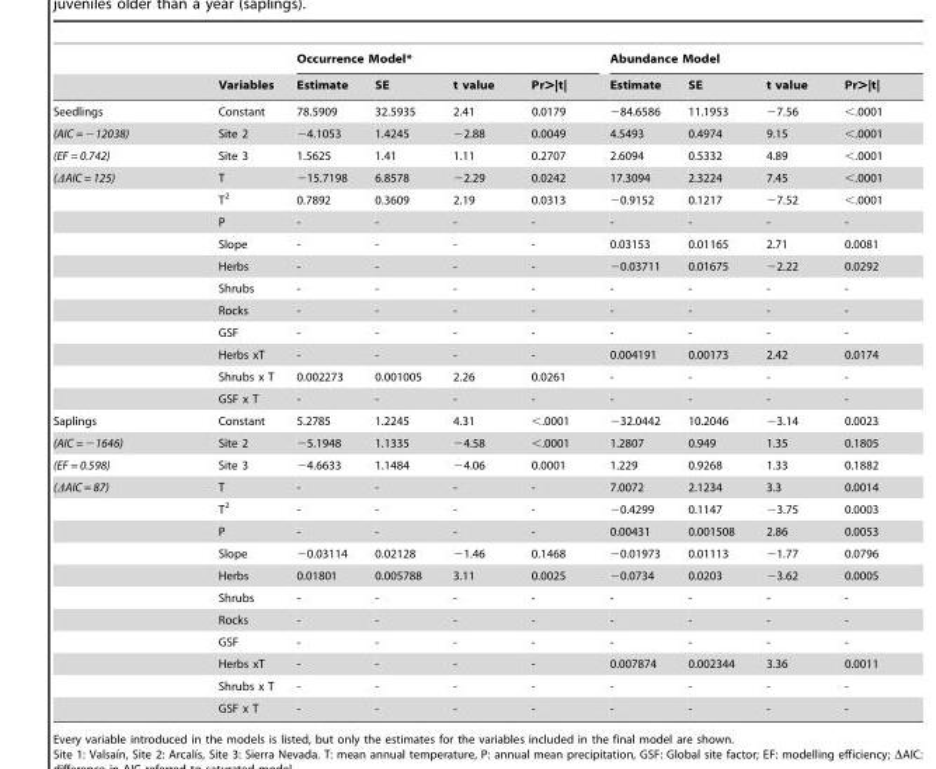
<table><thead><tr><td rowspan="2"></td><td rowspan="2">Variables</td><td colspan="4">Occurrence Model*</td><td colspan="4">Abundance Model</td></tr><tr><td>Estimate</td><td>SE</td><td>t value</td><td>Pr&gt;|t|</td><td>Estimate</td><td>SE</td><td>t value</td><td>Pr&gt;|t|</td></tr></thead><tbody><tr><td>Seedlings</td><td>Constant</td><td>78.5909</td><td>32.5935</td><td>2.41</td><td>0.0179</td><td>−84.6586</td><td>11.1953</td><td>−7.56</td><td>&lt;.0001</td></tr><tr><td>(AIC = −12038)</td><td>Site 2</td><td>−4.1053</td><td>1.4245</td><td>−2.88</td><td>0.0049</td><td>4.5493</td><td>0.4974</td><td>9.15</td><td>&lt;.0001</td></tr><tr><td>(EF = 0.742)</td><td>Site 3</td><td>1.5625</td><td>1.41</td><td>1.11</td><td>0.2707</td><td>2.6094</td><td>0.5332</td><td>4.89</td><td>&lt;.0001</td></tr><tr><td rowspan="11">(ΔAIC = 125)</td><td>T</td><td>−15.7198</td><td>6.8578</td><td>−2.29</td><td>0.0242</td><td>17.3094</td><td>2.3224</td><td>7.45</td><td>&lt;.0001</td></tr><tr><td>T<sup>2</sup></td><td>0.7892</td><td>0.3609</td><td>2.19</td><td>0.0313</td><td>−0.9152</td><td>0.1217</td><td>−7.52</td><td>&lt;.0001</td></tr><tr><td>P</td><td>-</td><td>-</td><td>-</td><td>-</td><td>-</td><td>-</td><td>-</td><td>-</td></tr><tr><td>Slope</td><td>-</td><td>-</td><td>-</td><td>-</td><td>0.03153</td><td>0.01165</td><td>2.71</td><td>0.0081</td></tr><tr><td>Herbs</td><td>-</td><td>-</td><td>-</td><td>-</td><td>−0.03711</td><td>0.01675</td><td>−2.22</td><td>0.0292</td></tr><tr><td>Shrubs</td><td>-</td><td>-</td><td>-</td><td>-</td><td>-</td><td>-</td><td>-</td><td>-</td></tr><tr><td>Rocks</td><td>-</td><td>-</td><td>-</td><td>-</td><td>-</td><td>-</td><td>-</td><td>-</td></tr><tr><td>GSF</td><td>-</td><td>-</td><td>-</td><td>-</td><td>-</td><td>-</td><td>-</td><td>-</td></tr><tr><td>Herbs xT</td><td>-</td><td>-</td><td>-</td><td>-</td><td>0.004191</td><td>0.00173</td><td>2.42</td><td>0.0174</td></tr><tr><td>Shrubs x T</td><td>0.002273</td><td>0.001005</td><td>2.26</td><td>0.0261</td><td>-</td><td>-</td><td>-</td><td>-</td></tr><tr><td>GSF x T</td><td>-</td><td>-</td><td>-</td><td>-</td><td>-</td><td>-</td><td>-</td><td>-</td></tr><tr><td>Saplings</td><td>Constant</td><td>5.2785</td><td>1.2245</td><td>4.31</td><td>&lt;.0001</td><td>−32.0442</td><td>10.2046</td><td>−3.14</td><td>0.0023</td></tr><tr><td>(AIC = −1646)</td><td>Site 2</td><td>−5.1948</td><td>1.1335</td><td>−4.58</td><td>&lt;.0001</td><td>1.2807</td><td>0.949</td><td>1.35</td><td>0.1805</td></tr><tr><td>(EF = 0.598)</td><td>Site 3</td><td>−4.6633</td><td>1.1484</td><td>−4.06</td><td>0.0001</td><td>1.229</td><td>0.9268</td><td>1.33</td><td>0.1882</td></tr><tr><td rowspan="11">(ΔAIC = 87)</td><td>T</td><td>-</td><td>-</td><td>-</td><td>-</td><td>7.0072</td><td>2.1234</td><td>3.3</td><td>0.0014</td></tr><tr><td>T<sup>2</sup></td><td>-</td><td>-</td><td>-</td><td>-</td><td>−0.4299</td><td>0.1147</td><td>−3.75</td><td>0.0003</td></tr><tr><td>P</td><td>-</td><td>-</td><td>-</td><td>-</td><td>0.00431</td><td>0.001508</td><td>2.86</td><td>0.0053</td></tr><tr><td>Slope</td><td>−0.03114</td><td>0.02128</td><td>−1.46</td><td>0.1468</td><td>−0.01973</td><td>0.01113</td><td>−1.77</td><td>0.0796</td></tr><tr><td>Herbs</td><td>0.01801</td><td>0.005788</td><td>3.11</td><td>0.0025</td><td>−0.0734</td><td>0.0203</td><td>−3.62</td><td>0.0005</td></tr><tr><td>Shrubs</td><td>-</td><td>-</td><td>-</td><td>-</td><td>-</td><td>-</td><td>-</td><td>-</td></tr><tr><td>Rocks</td><td>-</td><td>-</td><td>-</td><td>-</td><td>-</td><td>-</td><td>-</td><td>-</td></tr><tr><td>GSF</td><td>-</td><td>-</td><td>-</td><td>-</td><td>-</td><td>-</td><td>-</td><td>-</td></tr><tr><td>Herbs xT</td><td>-</td><td>-</td><td>-</td><td>-</td><td>0.007874</td><td>0.002344</td><td>3.36</td><td>0.0011</td></tr><tr><td>Shrubs x T</td><td>-</td><td>-</td><td>-</td><td>-</td><td>-</td><td>-</td><td>-</td><td>-</td></tr><tr><td>GSF x T</td><td>-</td><td>-</td><td>-</td><td>-</td><td>-</td><td>-</td><td>-</td><td>-</td></tr></tbody></table>